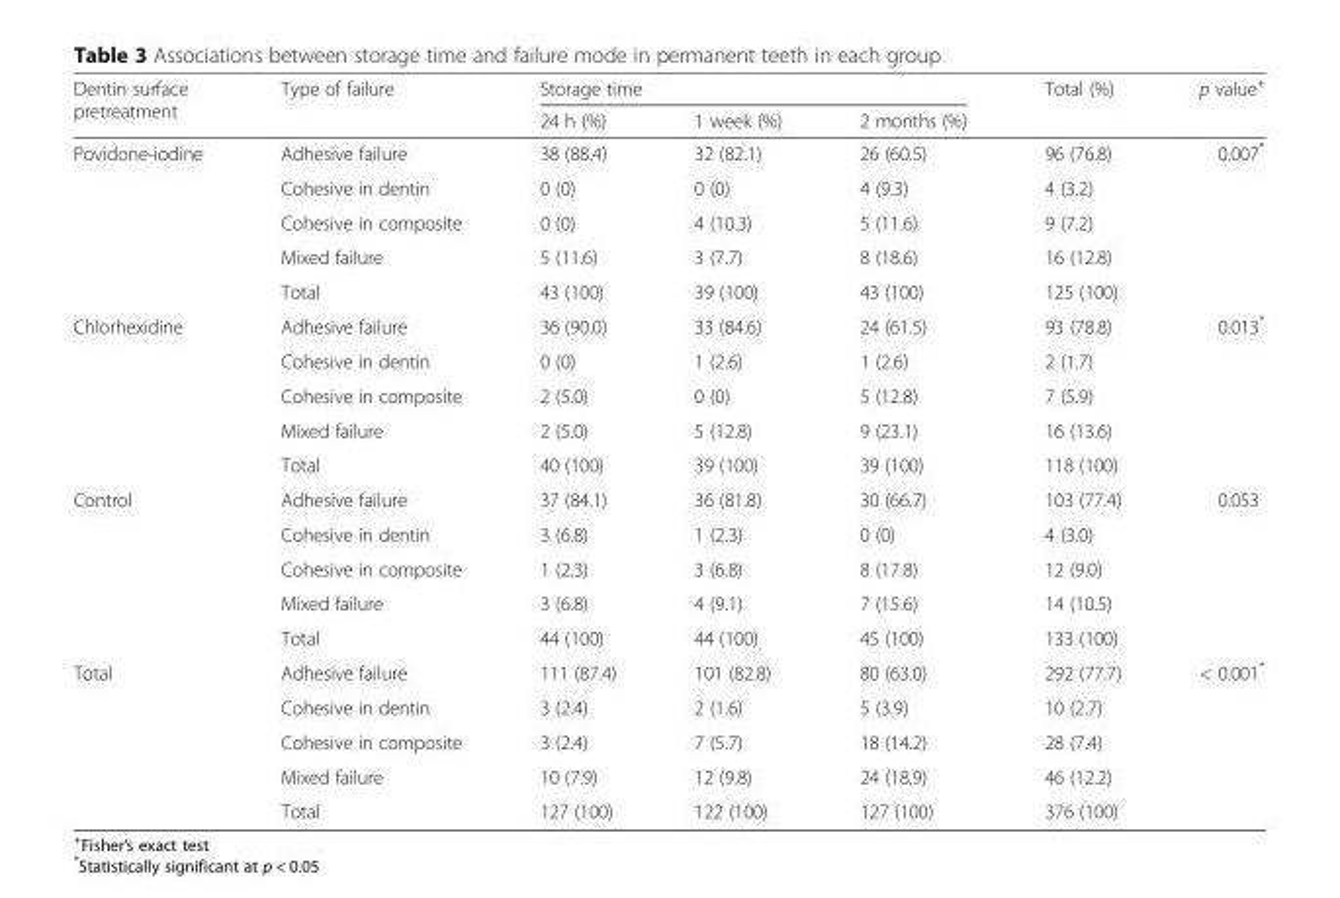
<table><thead><tr><td rowspan="2">Dentin surface pretreatment</td><td rowspan="2">Type of failure</td><td colspan="3">Storage time</td><td rowspan="2">Total (%)</td><td rowspan="2">p value<sup>+</sup></td></tr><tr><td>24 h (%)</td><td>1 week (%)</td><td>2 months (%)</td></tr></thead><tbody><tr><td rowspan="5">Povidone-iodine</td><td>Adhesive failure</td><td>38 (88.4)</td><td>32 (82.1)</td><td>26 (60.5)</td><td>96 (76.8)</td><td rowspan="5">0.007*</td></tr><tr><td>Cohesive in dentin</td><td>0 (0)</td><td>0 (0)</td><td>4 (9.3)</td><td>4 (3.2)</td></tr><tr><td>Cohesive in composite</td><td>0 (0)</td><td>4 (10.3)</td><td>5 (11.6)</td><td>9 (7.2)</td></tr><tr><td>Mixed failure</td><td>5 (11.6)</td><td>3 (7.7)</td><td>8 (18.6)</td><td>16 (12.8)</td></tr><tr><td>Total</td><td>43 (100)</td><td>39 (100)</td><td>43 (100)</td><td>125 (100)</td></tr><tr><td rowspan="5">Chlorhexidine</td><td>Adhesive failure</td><td>36 (90.0)</td><td>33 (84.6)</td><td>24 (61.5)</td><td>93 (78.8)</td><td rowspan="5">0.013*</td></tr><tr><td>Cohesive in dentin</td><td>0 (0)</td><td>1 (2.6)</td><td>1 (2.6)</td><td>2 (1.7)</td></tr><tr><td>Cohesive in composite</td><td>2 (5.0)</td><td>0 (0)</td><td>5 (12.8)</td><td>7 (5.9)</td></tr><tr><td>Mixed failure</td><td>2 (5.0)</td><td>5 (12.8)</td><td>9 (23.1)</td><td>16 (13.6)</td></tr><tr><td>Total</td><td>40 (100)</td><td>39 (100)</td><td>39 (100)</td><td>118 (100)</td></tr><tr><td rowspan="5">Control</td><td>Adhesive failure</td><td>37 (84.1)</td><td>36 (81.8)</td><td>30 (66.7)</td><td>103 (77.4)</td><td rowspan="5">0.053</td></tr><tr><td>Cohesive in dentin</td><td>3 (6.8)</td><td>1 (2.3)</td><td>0 (0)</td><td>4 (3.0)</td></tr><tr><td>Cohesive in composite</td><td>1 (2.3)</td><td>3 (6.8)</td><td>8 (17.8)</td><td>12 (9.0)</td></tr><tr><td>Mixed failure</td><td>3 (6.8)</td><td>4 (9.1)</td><td>7 (15.6)</td><td>14 (10.5)</td></tr><tr><td>Total</td><td>44 (100)</td><td>44 (100)</td><td>45 (100)</td><td>133 (100)</td></tr><tr><td rowspan="5">Total</td><td>Adhesive failure</td><td>111 (87.4)</td><td>101 (82.8)</td><td>80 (63.0)</td><td>292 (77.7)</td><td rowspan="5">&lt; 0.001*</td></tr><tr><td>Cohesive in dentin</td><td>3 (2.4)</td><td>2 (1.6)</td><td>5 (3.9)</td><td>10 (2.7)</td></tr><tr><td>Cohesive in composite</td><td>3 (2.4)</td><td>7 (5.7)</td><td>18 (14.2)</td><td>28 (7.4)</td></tr><tr><td>Mixed failure</td><td>10 (7.9)</td><td>12 (9.8)</td><td>24 (18.9)</td><td>46 (12.2)</td></tr><tr><td>Total</td><td>127 (100)</td><td>122 (100)</td><td>127 (100)</td><td>376 (100)</td></tr></tbody></table>